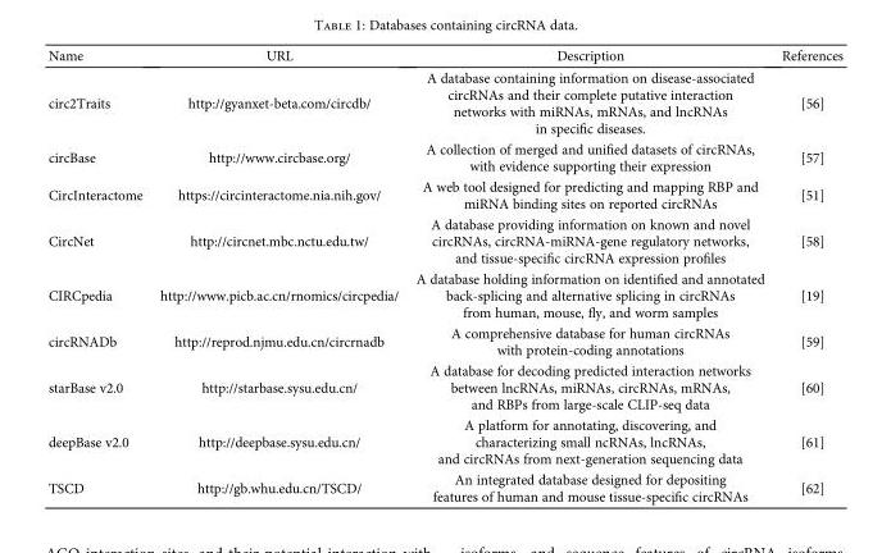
<table><thead><tr><td>Name</td><td>URL</td><td>Description</td><td>References</td></tr></thead><tbody><tr><td>circ2Traits</td><td>http://gyanxet-beta.com/circdb/</td><td>A database containing information on disease-associated circRNAs and their complete putative interaction networks with miRNAs, mRNAs, and lncRNAs in specific diseases.</td><td>[56]</td></tr><tr><td>circBase</td><td>http://www.circbase.org/</td><td>A collection of merged and unified datasets of circRNAs, with evidence supporting their expression</td><td>[57]</td></tr><tr><td>CircInteractome</td><td>https://circinteractome.nia.nih.gov/</td><td>A web tool designed for predicting and mapping RBP and miRNA binding sites on reported circRNAs</td><td>[51]</td></tr><tr><td>CircNet</td><td>http://circnet.mbc.nctu.edu.tw/</td><td>A database providing information on known and novel circRNAs, circRNA-miRNA-gene regulatory networks, and tissue-specific circRNA expression profiles</td><td>[58]</td></tr><tr><td>CIRCpedia</td><td>http://www.picb.ac.cn/rnomics/circpedia/</td><td>A database holding information on identified and annotated back-splicing and alternative splicing in circRNAs from human, mouse, fly, and worm samples</td><td>[19]</td></tr><tr><td>circRNADb</td><td>http://reprod.njmu.edu.cn/circrnadb</td><td>A comprehensive database for human circRNAs with protein-coding annotations</td><td>[59]</td></tr><tr><td>starBase v2.0</td><td>http://starbase.sysu.edu.cn/</td><td>A database for decoding predicted interaction networks between lncRNAs, miRNAs, circRNAs, mRNAs, and RBPs from large-scale CLIP-seq data</td><td>[60]</td></tr><tr><td>deepBase v2.0</td><td>http://deepbase.sysu.edu.cn/</td><td>A platform for annotating, discovering, and characterizing small ncRNAs, lncRNAs, and circRNAs from next-generation sequencing data</td><td>[61]</td></tr><tr><td>TSCD</td><td>http://gb.whu.edu.cn/TSCD/</td><td>An integrated database designed for depositing features of human and mouse tissue-specific circRNAs</td><td>[62]</td></tr></tbody></table>